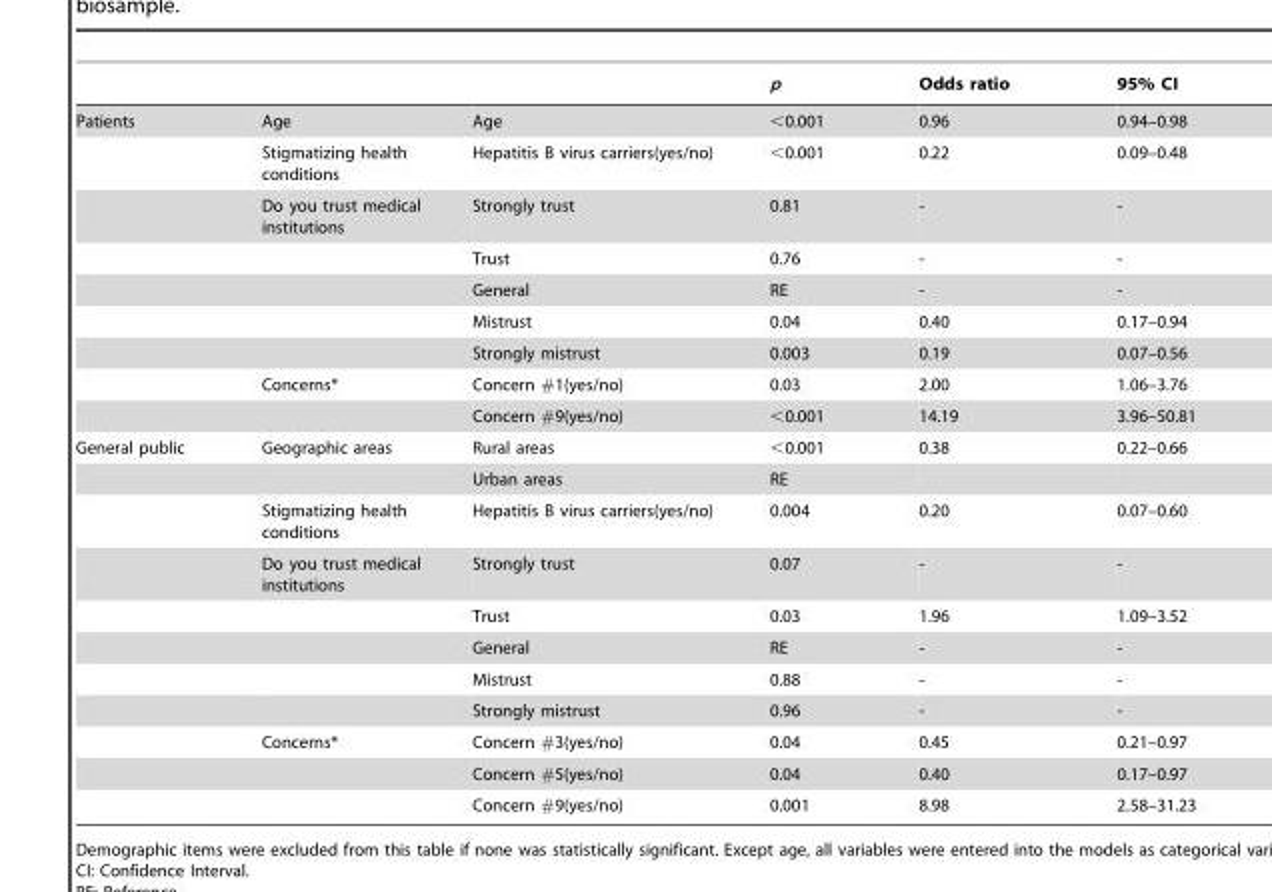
<table><thead><tr><td></td><td></td><td></td><td>p</td><td>Odds ratio</td><td>95% CI</td></tr></thead><tbody><tr><td rowspan="9">Patients</td><td>Age</td><td>Age</td><td>&lt;0.001</td><td>0.96</td><td>0.94–0.98</td></tr><tr><td>Stigmatizing health conditions</td><td>Hepatitis B virus carriers(yes/no)</td><td>&lt;0.001</td><td>0.22</td><td>0.09–0.48</td></tr><tr><td>Do you trust medical institutions</td><td>Strongly trust</td><td>0.81</td><td>-</td><td>-</td></tr><tr><td></td><td>Trust</td><td>0.76</td><td>-</td><td>-</td></tr><tr><td></td><td>General</td><td>RE</td><td>-</td><td>-</td></tr><tr><td></td><td>Mistrust</td><td>0.04</td><td>0.40</td><td>0.17–0.94</td></tr><tr><td></td><td>Strongly mistrust</td><td>0.003</td><td>0.19</td><td>0.07–0.56</td></tr><tr><td>Concerns*</td><td>Concern #1(yes/no)</td><td>0.03</td><td>2.00</td><td>1.06–3.76</td></tr><tr><td></td><td>Concern #9(yes/no)</td><td>&lt;0.001</td><td>14.19</td><td>3.96–50.81</td></tr><tr><td rowspan="11">General public</td><td>Geographic areas</td><td>Rural areas</td><td>&lt;0.001</td><td>0.38</td><td>0.22–0.66</td></tr><tr><td></td><td>Urban areas</td><td>RE</td><td></td><td></td></tr><tr><td>Stigmatizing health conditions</td><td>Hepatitis B virus carriers(yes/no)</td><td>0.004</td><td>0.20</td><td>0.07–0.60</td></tr><tr><td>Do you trust medical institutions</td><td>Strongly trust</td><td>0.07</td><td>-</td><td>-</td></tr><tr><td></td><td>Trust</td><td>0.03</td><td>1.96</td><td>1.09–3.52</td></tr><tr><td></td><td>General</td><td>RE</td><td>-</td><td>-</td></tr><tr><td></td><td>Mistrust</td><td>0.88</td><td>-</td><td>-</td></tr><tr><td></td><td>Strongly mistrust</td><td>0.96</td><td>-</td><td>-</td></tr><tr><td>Concerns*</td><td>Concern #3(yes/no)</td><td>0.04</td><td>0.45</td><td>0.21–0.97</td></tr><tr><td></td><td>Concern #5(yes/no)</td><td>0.04</td><td>0.40</td><td>0.17–0.97</td></tr><tr><td></td><td>Concern #9(yes/no)</td><td>0.001</td><td>8.98</td><td>2.58–31.23</td></tr></tbody></table>